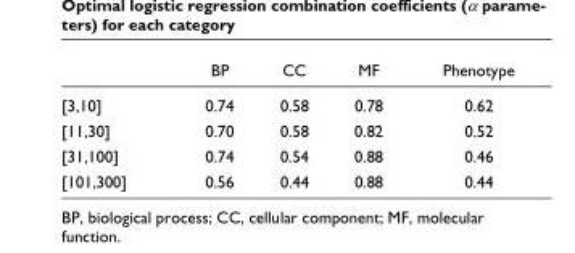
<table><thead><tr><td></td><td>BP</td><td>CC</td><td>MF</td><td>Phenotype</td></tr></thead><tbody><tr><td>[3,10]</td><td>0.74</td><td>0.58</td><td>0.78</td><td>0.62</td></tr><tr><td>[11,30]</td><td>0.70</td><td>0.58</td><td>0.82</td><td>0.52</td></tr><tr><td>[31,100]</td><td>0.74</td><td>0.54</td><td>0.88</td><td>0.46</td></tr><tr><td>[101,300]</td><td>0.56</td><td>0.44</td><td>0.88</td><td>0.44</td></tr></tbody></table>